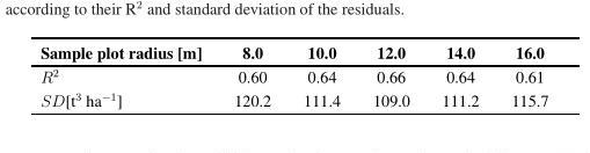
<table><thead><tr><td>Sample plot radius [m]</td><td>8.0</td><td>10.0</td><td>12.0</td><td>14.0</td><td>16.0</td></tr></thead><tbody><tr><td>R<sup>2</sup></td><td>0.60</td><td>0.64</td><td>0.66</td><td>0.64</td><td>0.61</td></tr><tr><td>SD[t<sup>3</sup> ha<sup>−1</sup>]</td><td>120.2</td><td>111.4</td><td>109.0</td><td>111.2</td><td>115.7</td></tr></tbody></table>